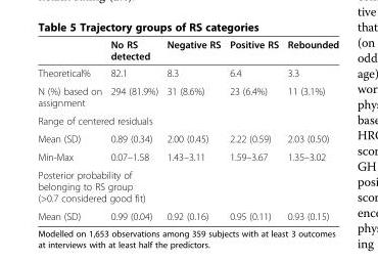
<table><thead><tr><td></td><td>No RS detected</td><td>Negative RS</td><td>Positive RS</td><td>Rebounded</td></tr></thead><tbody><tr><td>Theoretical%</td><td>82.1</td><td>8.3</td><td>6.4</td><td>3.3</td></tr><tr><td>N (%) based on assignment</td><td>294 (81.9%)</td><td>31 (8.6%)</td><td>23 (6.4%)</td><td>11 (3.1%)</td></tr><tr><td colspan="5">Range of centered residuals</td></tr><tr><td>Mean (SD)</td><td>0.89 (0.34)</td><td>2.00 (0.45)</td><td>2.22 (0.59)</td><td>2.03 (0.50)</td></tr><tr><td>Min-Max</td><td>0.07–1.58</td><td>1.43–3.11</td><td>1.59–3.67</td><td>1.35–3.02</td></tr><tr><td colspan="5">Posterior probability of belonging to RS group (&gt;0.7 considered good fit)</td></tr><tr><td>Mean (SD)</td><td>0.99 (0.04)</td><td>0.92 (0.16)</td><td>0.95 (0.11)</td><td>0.93 (0.15)</td></tr></tbody></table>